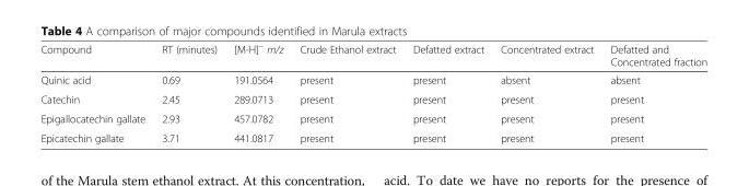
<table><thead><tr><td>Compound</td><td>RT (minutes)</td><td>[M-H]<sup>−</sup> m/z</td><td>Crude Ethanol extract</td><td>Defatted extract</td><td>Concentrated extract</td><td>Defatted and Concentrated fraction</td></tr></thead><tbody><tr><td>Quinic acid</td><td>0.69</td><td>191.0564</td><td>present</td><td>present</td><td>absent</td><td>absent</td></tr><tr><td>Catechin</td><td>2.45</td><td>289.0713</td><td>present</td><td>present</td><td>present</td><td>present</td></tr><tr><td>Epigallocatechin gallate</td><td>2.93</td><td>457.0782</td><td>present</td><td>present</td><td>present</td><td>present</td></tr><tr><td>Epicatechin gallate</td><td>3.71</td><td>441.0817</td><td>present</td><td>present</td><td>present</td><td>present</td></tr></tbody></table>